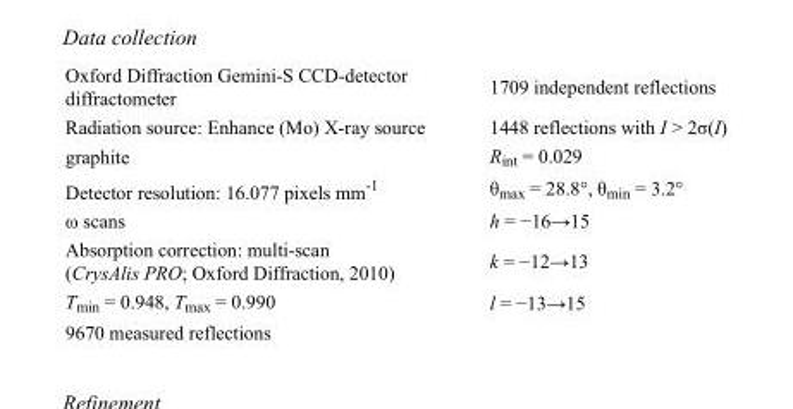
<table><tbody><tr><td>Oxford Diffraction Gemini-S CCD-detector diffractometer</td><td>1709 independent reflections</td></tr><tr><td>Radiation source: Enhance (Mo) X-ray source</td><td>1448 reflections with I &gt; 2σ(I)</td></tr><tr><td>graphite</td><td>R<sub>int</sub> = 0.029</td></tr><tr><td>Detector resolution: 16.077 pixels mm<sup>-1</sup></td><td>θ<sub>max</sub> = 28.8°, θ<sub>min</sub> = 3.2°</td></tr><tr><td>ω scans</td><td>h = −16→15</td></tr><tr><td>Absorption correction: multi-scan (CrysAlis PRO; Oxford Diffraction, 2010)</td><td>k = −12→13</td></tr><tr><td>T<sub>min</sub> = 0.948, T<sub>max</sub> = 0.990</td><td>l = −13→15</td></tr><tr><td>9670 measured reflections</td><td></td></tr></tbody></table>